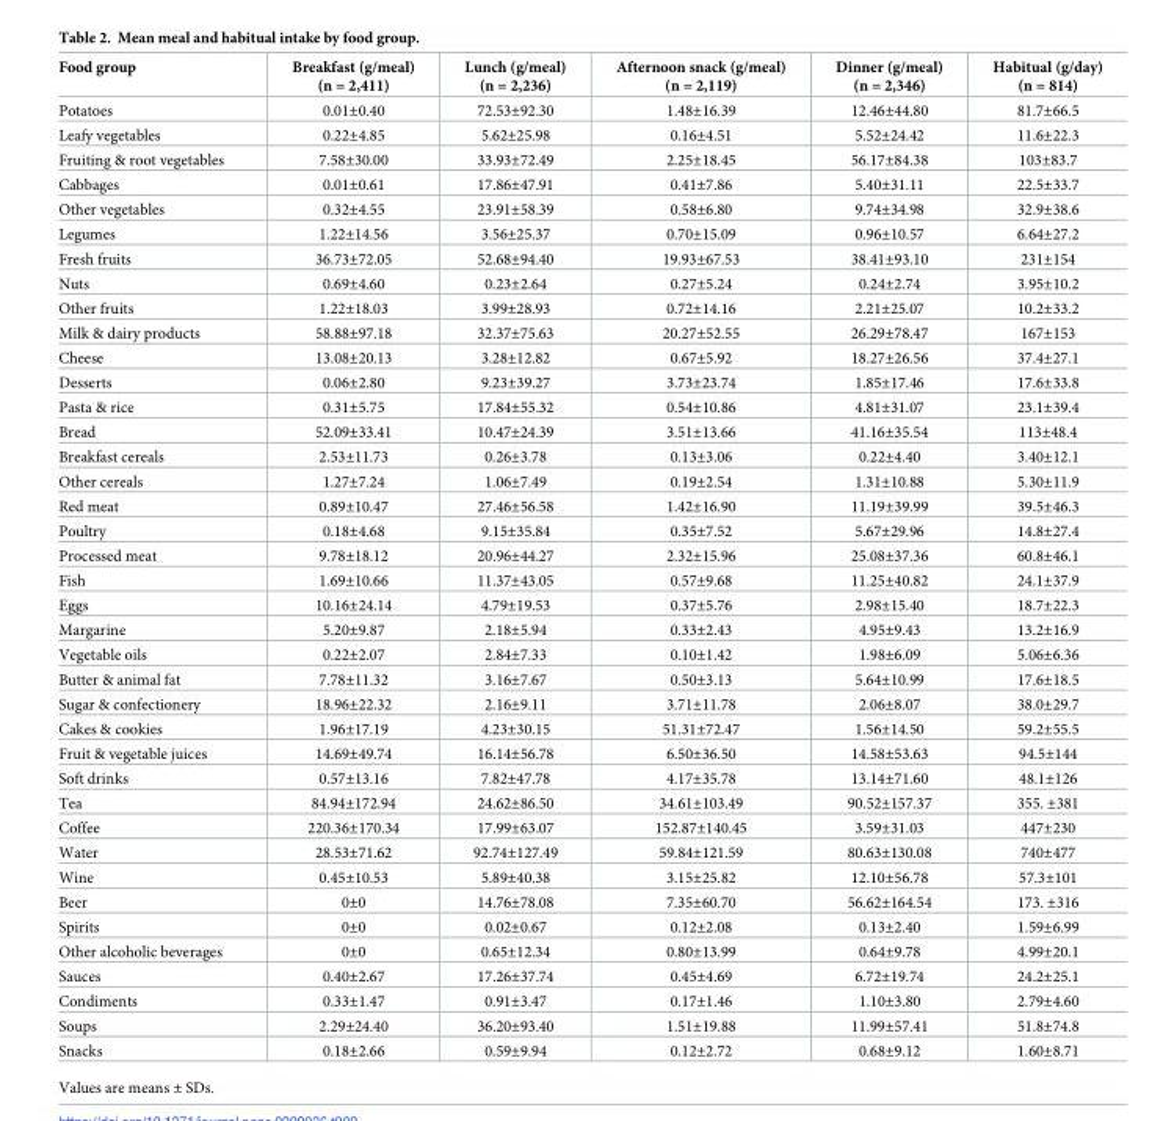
<table><thead><tr><td>Food group</td><td>Breakfast (g/meal) (n = 2,411)</td><td>Lunch (g/meal) (n = 2,236)</td><td>Afternoon snack (g/meal) (n = 2,119)</td><td>Dinner (g/meal) (n = 2,346)</td><td>Habitual (g/day) (n = 814)</td></tr></thead><tbody><tr><td>Potatoes</td><td>0.01±0.40</td><td>72.53±92.30</td><td>1.48±16.39</td><td>12.46±44.80</td><td>81.7±66.5</td></tr><tr><td>Leafy vegetables</td><td>0.22±4.85</td><td>5.62±25.98</td><td>0.16±4.51</td><td>5.52±24.42</td><td>11.6±22.3</td></tr><tr><td>Fruiting &amp; root vegetables</td><td>7.58±30.00</td><td>33.93±72.49</td><td>2.25±18.45</td><td>56.17±84.38</td><td>103±83.7</td></tr><tr><td>Cabbages</td><td>0.01±0.61</td><td>17.86±47.91</td><td>0.41±7.86</td><td>5.40±31.11</td><td>22.5±33.7</td></tr><tr><td>Other vegetables</td><td>0.32±4.55</td><td>23.91±58.39</td><td>0.58±6.80</td><td>9.74±34.98</td><td>32.9±38.6</td></tr><tr><td>Legumes</td><td>1.22±14.56</td><td>3.56±25.37</td><td>0.70±15.09</td><td>0.96±10.57</td><td>6.64±27.2</td></tr><tr><td>Fresh fruits</td><td>36.73±72.05</td><td>52.68±94.40</td><td>19.93±67.53</td><td>38.41±93.10</td><td>231±154</td></tr><tr><td>Nuts</td><td>0.69±4.60</td><td>0.23±2.64</td><td>0.27±5.24</td><td>0.24±2.74</td><td>3.95±10.2</td></tr><tr><td>Other fruits</td><td>1.22±18.03</td><td>3.99±28.93</td><td>0.72±14.16</td><td>2.21±25.07</td><td>10.2±33.2</td></tr><tr><td>Milk &amp; dairy products</td><td>58.88±97.18</td><td>32.37±75.63</td><td>20.27±52.55</td><td>26.29±78.47</td><td>167±153</td></tr><tr><td>Cheese</td><td>13.08±20.13</td><td>3.28±12.82</td><td>0.67±5.92</td><td>18.27±26.56</td><td>37.4±27.1</td></tr><tr><td>Desserts</td><td>0.06±2.80</td><td>9.23±39.27</td><td>3.73±23.74</td><td>1.85±17.46</td><td>17.6±33.8</td></tr><tr><td>Pasta &amp; rice</td><td>0.31±5.75</td><td>17.84±55.32</td><td>0.54±10.86</td><td>4.81±31.07</td><td>23.1±39.4</td></tr><tr><td>Bread</td><td>52.09±33.41</td><td>10.47±24.39</td><td>3.51±13.66</td><td>41.16±35.54</td><td>113±48.4</td></tr><tr><td>Breakfast cereals</td><td>2.53±11.73</td><td>0.26±3.78</td><td>0.13±3.06</td><td>0.22±4.40</td><td>3.40±12.1</td></tr><tr><td>Other cereals</td><td>1.27±7.24</td><td>1.06±7.49</td><td>0.19±2.54</td><td>1.31±10.88</td><td>5.30±11.9</td></tr><tr><td>Red meat</td><td>0.89±10.47</td><td>27.46±56.58</td><td>1.42±16.90</td><td>11.19±39.99</td><td>39.5±46.3</td></tr><tr><td>Poultry</td><td>0.18±4.68</td><td>9.15±35.84</td><td>0.35±7.52</td><td>5.67±29.96</td><td>14.8±27.4</td></tr><tr><td>Processed meat</td><td>9.78±18.12</td><td>20.96±44.27</td><td>2.32±15.96</td><td>25.08±37.36</td><td>60.8±46.1</td></tr><tr><td>Fish</td><td>1.69±10.66</td><td>11.37±43.05</td><td>0.57±9.68</td><td>11.25±40.82</td><td>24.1±37.9</td></tr><tr><td>Eggs</td><td>10.16±24.14</td><td>4.79±19.53</td><td>0.37±5.76</td><td>2.98±15.40</td><td>18.7±22.3</td></tr><tr><td>Margarine</td><td>5.20±9.87</td><td>2.18±5.94</td><td>0.33±2.43</td><td>4.95±9.43</td><td>13.2±16.9</td></tr><tr><td>Vegetable oils</td><td>0.22±2.07</td><td>2.84±7.33</td><td>0.10±1.42</td><td>1.98±6.09</td><td>5.06±6.36</td></tr><tr><td>Butter &amp; animal fat</td><td>7.78±11.32</td><td>3.16±7.67</td><td>0.50±3.13</td><td>5.64±10.99</td><td>17.6±18.5</td></tr><tr><td>Sugar &amp; confectionery</td><td>18.96±22.32</td><td>2.16±9.11</td><td>3.71±11.78</td><td>2.06±8.07</td><td>38.0±29.7</td></tr><tr><td>Cakes &amp; cookies</td><td>1.96±17.19</td><td>4.23±30.15</td><td>51.31±72.47</td><td>1.56±14.50</td><td>59.2±55.5</td></tr><tr><td>Fruit &amp; vegetable juices</td><td>14.69±49.74</td><td>16.14±56.78</td><td>6.50±36.50</td><td>14.58±53.63</td><td>94.5±144</td></tr><tr><td>Soft drinks</td><td>0.57±13.16</td><td>7.82±47.78</td><td>4.17±35.78</td><td>13.14±71.60</td><td>48.1±126</td></tr><tr><td>Tea</td><td>84.94±172.94</td><td>24.62±86.50</td><td>34.61±103.49</td><td>90.52±157.37</td><td>355. ±381</td></tr><tr><td>Coffee</td><td>220.36±170.34</td><td>17.99±63.07</td><td>152.87±140.45</td><td>3.59±31.03</td><td>447±230</td></tr><tr><td>Water</td><td>28.53±71.62</td><td>92.74±127.49</td><td>59.84±121.59</td><td>80.63±130.08</td><td>740±477</td></tr><tr><td>Wine</td><td>0.45±10.53</td><td>5.89±40.38</td><td>3.15±25.82</td><td>12.10±56.78</td><td>57.3±101</td></tr><tr><td>Beer</td><td>0±0</td><td>14.76±78.08</td><td>7.35±60.70</td><td>56.62±164.54</td><td>173. ±316</td></tr><tr><td>Spirits</td><td>0±0</td><td>0.02±0.67</td><td>0.12±2.08</td><td>0.13±2.40</td><td>1.59±6.99</td></tr><tr><td>Other alcoholic beverages</td><td>0±0</td><td>0.65±12.34</td><td>0.80±13.99</td><td>0.64±9.78</td><td>4.99±20.1</td></tr><tr><td>Sauces</td><td>0.40±2.67</td><td>17.26±37.74</td><td>0.45±4.69</td><td>6.72±19.74</td><td>24.2±25.1</td></tr><tr><td>Condiments</td><td>0.33±1.47</td><td>0.91±3.47</td><td>0.17±1.46</td><td>1.10±3.80</td><td>2.79±4.60</td></tr><tr><td>Soups</td><td>2.29±24.40</td><td>36.20±93.40</td><td>1.51±19.88</td><td>11.99±57.41</td><td>51.8±74.8</td></tr><tr><td>Snacks</td><td>0.18±2.66</td><td>0.59±9.94</td><td>0.12±2.72</td><td>0.68±9.12</td><td>1.60±8.71</td></tr></tbody></table>